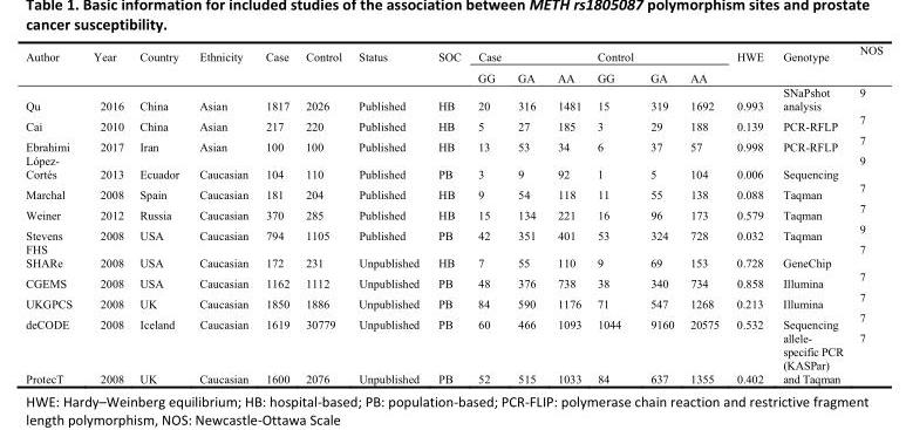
<table><tbody><tr><td rowspan="2">Author</td><td>Year</td><td>Country</td><td>Ethnicity</td><td>Case</td><td>Control</td><td>Status</td><td>SOC</td><td>Case</td><td></td><td></td><td>Control</td><td></td><td></td><td>HWE</td><td>Genotype</td><td>NOS</td></tr><tr><td></td><td></td><td></td><td></td><td></td><td></td><td></td><td>GG</td><td>GA</td><td>AA</td><td>GG</td><td>GA</td><td>AA</td><td></td><td></td><td></td></tr><tr><td>Qu</td><td>2016</td><td>China</td><td>Asian</td><td>1817</td><td>2026</td><td>Published</td><td>HB</td><td>20</td><td>316</td><td>1481</td><td>15</td><td>319</td><td>1692</td><td>0.993</td><td>SNaPshot analysis</td><td>9</td></tr><tr><td>Cai</td><td>2010</td><td>China</td><td>Asian</td><td>217</td><td>220</td><td>Published</td><td>HB</td><td>5</td><td>27</td><td>185</td><td>3</td><td>29</td><td>188</td><td>0.139</td><td>PCR-RFLP</td><td>7</td></tr><tr><td>Ebrahimi</td><td>2017</td><td>Iran</td><td>Asian</td><td>100</td><td>100</td><td>Published</td><td>HB</td><td>13</td><td>53</td><td>34</td><td>6</td><td>37</td><td>57</td><td>0.998</td><td>PCR-RFLP</td><td>7</td></tr><tr><td>López- Cortés</td><td>2013</td><td>Ecuador</td><td>Caucasian</td><td>104</td><td>110</td><td>Published</td><td>PB</td><td>3</td><td>9</td><td>92</td><td>1</td><td>5</td><td>104</td><td>0.006</td><td>Sequencing</td><td>9</td></tr><tr><td>Marchal</td><td>2008</td><td>Spain</td><td>Caucasian</td><td>181</td><td>204</td><td>Published</td><td>HB</td><td>9</td><td>54</td><td>118</td><td>11</td><td>55</td><td>138</td><td>0.088</td><td>Taqman</td><td>7</td></tr><tr><td>Weiner</td><td>2012</td><td>Russia</td><td>Caucasian</td><td>370</td><td>285</td><td>Published</td><td>HB</td><td>15</td><td>134</td><td>221</td><td>16</td><td>96</td><td>173</td><td>0.579</td><td>Taqman</td><td>7</td></tr><tr><td>Stevens</td><td>2008</td><td>USA</td><td>Caucasian</td><td>794</td><td>1105</td><td>Published</td><td>PB</td><td>42</td><td>351</td><td>401</td><td>53</td><td>324</td><td>728</td><td>0.032</td><td>Taqman</td><td>9</td></tr><tr><td>FHS SHARe</td><td>2008</td><td>USA</td><td>Caucasian</td><td>172</td><td>231</td><td>Unpublished</td><td>HB</td><td>7</td><td>55</td><td>110</td><td>9</td><td>69</td><td>153</td><td>0.728</td><td>GeneChip</td><td>7</td></tr><tr><td>CGEMS</td><td>2008</td><td>USA</td><td>Caucasian</td><td>1162</td><td>1112</td><td>Unpublished</td><td>PB</td><td>48</td><td>376</td><td>738</td><td>38</td><td>340</td><td>734</td><td>0.858</td><td>Illumina</td><td>7</td></tr><tr><td>UKGPCS</td><td>2008</td><td>UK</td><td>Caucasian</td><td>1850</td><td>1886</td><td>Unpublished</td><td>PB</td><td>84</td><td>590</td><td>1176</td><td>71</td><td>547</td><td>1268</td><td>0.213</td><td>Illumina</td><td>7</td></tr><tr><td>deCODE</td><td>2008</td><td>Iceland</td><td>Caucasian</td><td>1619</td><td>30779</td><td>Unpublished</td><td>PB</td><td>60</td><td>466</td><td>1093</td><td>1044</td><td>9160</td><td>20575</td><td>0.532</td><td>Sequencing</td><td>7</td></tr><tr><td>ProtecT</td><td>2008</td><td>UK</td><td>Caucasian</td><td>1600</td><td>2076</td><td>Unpublished</td><td>PB</td><td>52</td><td>515</td><td>1033</td><td>84</td><td>637</td><td>1355</td><td>0.402</td><td>allele- specific PCR (KASPar) and Taqman</td><td>7</td></tr></tbody></table>